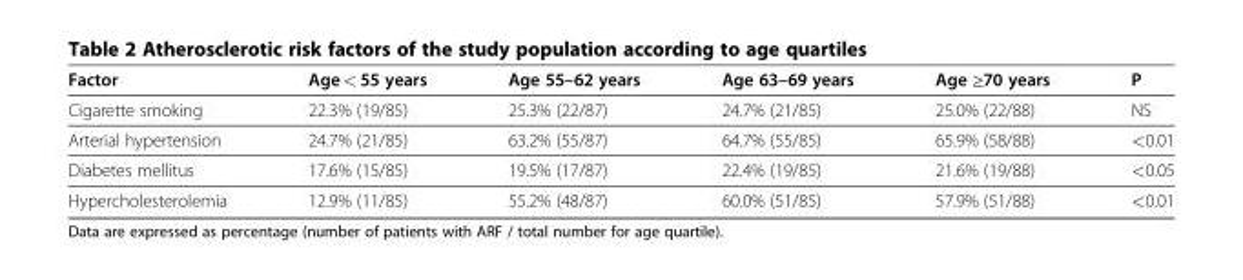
<table><thead><tr><td>Factor</td><td>Age &lt; 55 years</td><td>Age 55–62 years</td><td>Age 63–69 years</td><td>Age ≥70 years</td><td>P</td></tr></thead><tbody><tr><td>Cigarette smoking</td><td>22.3% (19/85)</td><td>25.3% (22/87)</td><td>24.7% (21/85)</td><td>25.0% (22/88)</td><td>NS</td></tr><tr><td>Arterial hypertension</td><td>24.7% (21/85)</td><td>63.2% (55/87)</td><td>64.7% (55/85)</td><td>65.9% (58/88)</td><td>&lt;0.01</td></tr><tr><td>Diabetes mellitus</td><td>17.6% (15/85)</td><td>19.5% (17/87)</td><td>22.4% (19/85)</td><td>21.6% (19/88)</td><td>&lt;0.05</td></tr><tr><td>Hypercholesterolemia</td><td>12.9% (11/85)</td><td>55.2% (48/87)</td><td>60.0% (51/85)</td><td>57.9% (51/88)</td><td>&lt;0.01</td></tr></tbody></table>